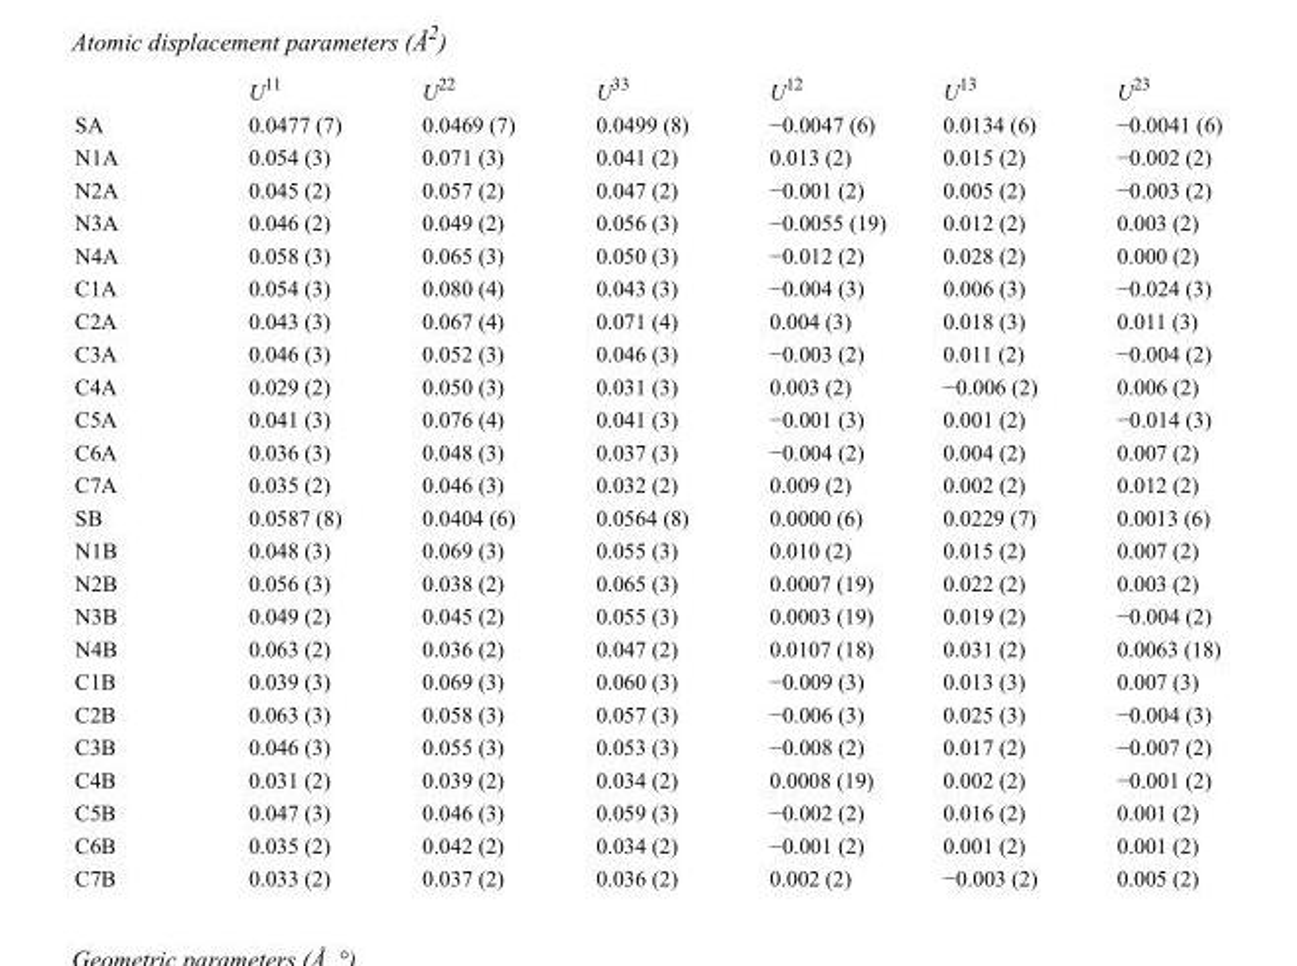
<table><thead><tr><td></td><td>U<sup>11</sup></td><td>U<sup>22</sup></td><td>U<sup>33</sup></td><td>U<sup>12</sup></td><td>U<sup>13</sup></td><td>U<sup>23</sup></td></tr></thead><tbody><tr><td>SA</td><td>0.0477 (7)</td><td>0.0469 (7)</td><td>0.0499 (8)</td><td>−0.0047 (6)</td><td>0.0134 (6)</td><td>−0.0041 (6)</td></tr><tr><td>N1A</td><td>0.054 (3)</td><td>0.071 (3)</td><td>0.041 (2)</td><td>0.013 (2)</td><td>0.015 (2)</td><td>−0.002 (2)</td></tr><tr><td>N2A</td><td>0.045 (2)</td><td>0.057 (2)</td><td>0.047 (2)</td><td>−0.001 (2)</td><td>0.005 (2)</td><td>−0.003 (2)</td></tr><tr><td>N3A</td><td>0.046 (2)</td><td>0.049 (2)</td><td>0.056 (3)</td><td>−0.0055 (19)</td><td>0.012 (2)</td><td>0.003 (2)</td></tr><tr><td>N4A</td><td>0.058 (3)</td><td>0.065 (3)</td><td>0.050 (3)</td><td>−0.012 (2)</td><td>0.028 (2)</td><td>0.000 (2)</td></tr><tr><td>C1A</td><td>0.054 (3)</td><td>0.080 (4)</td><td>0.043 (3)</td><td>−0.004 (3)</td><td>0.006 (3)</td><td>−0.024 (3)</td></tr><tr><td>C2A</td><td>0.043 (3)</td><td>0.067 (4)</td><td>0.071 (4)</td><td>0.004 (3)</td><td>0.018 (3)</td><td>0.011 (3)</td></tr><tr><td>C3A</td><td>0.046 (3)</td><td>0.052 (3)</td><td>0.046 (3)</td><td>−0.003 (2)</td><td>0.011 (2)</td><td>−0.004 (2)</td></tr><tr><td>C4A</td><td>0.029 (2)</td><td>0.050 (3)</td><td>0.031 (3)</td><td>0.003 (2)</td><td>−0.006 (2)</td><td>0.006 (2)</td></tr><tr><td>C5A</td><td>0.041 (3)</td><td>0.076 (4)</td><td>0.041 (3)</td><td>−0.001 (3)</td><td>0.001 (2)</td><td>−0.014 (3)</td></tr><tr><td>C6A</td><td>0.036 (3)</td><td>0.048 (3)</td><td>0.037 (3)</td><td>−0.004 (2)</td><td>0.004 (2)</td><td>0.007 (2)</td></tr><tr><td>C7A</td><td>0.035 (2)</td><td>0.046 (3)</td><td>0.032 (2)</td><td>0.009 (2)</td><td>0.002 (2)</td><td>0.012 (2)</td></tr><tr><td>SB</td><td>0.0587 (8)</td><td>0.0404 (6)</td><td>0.0564 (8)</td><td>0.0000 (6)</td><td>0.0229 (7)</td><td>0.0013 (6)</td></tr><tr><td>N1B</td><td>0.048 (3)</td><td>0.069 (3)</td><td>0.055 (3)</td><td>0.010 (2)</td><td>0.015 (2)</td><td>0.007 (2)</td></tr><tr><td>N2B</td><td>0.056 (3)</td><td>0.038 (2)</td><td>0.065 (3)</td><td>0.0007 (19)</td><td>0.022 (2)</td><td>0.003 (2)</td></tr><tr><td>N3B</td><td>0.049 (2)</td><td>0.045 (2)</td><td>0.055 (3)</td><td>0.0003 (19)</td><td>0.019 (2)</td><td>−0.004 (2)</td></tr><tr><td>N4B</td><td>0.063 (2)</td><td>0.036 (2)</td><td>0.047 (2)</td><td>0.0107 (18)</td><td>0.031 (2)</td><td>0.0063 (18)</td></tr><tr><td>C1B</td><td>0.039 (3)</td><td>0.069 (3)</td><td>0.060 (3)</td><td>−0.009 (3)</td><td>0.013 (3)</td><td>0.007 (3)</td></tr><tr><td>C2B</td><td>0.063 (3)</td><td>0.058 (3)</td><td>0.057 (3)</td><td>−0.006 (3)</td><td>0.025 (3)</td><td>−0.004 (3)</td></tr><tr><td>C3B</td><td>0.046 (3)</td><td>0.055 (3)</td><td>0.053 (3)</td><td>−0.008 (2)</td><td>0.017 (2)</td><td>−0.007 (2)</td></tr><tr><td>C4B</td><td>0.031 (2)</td><td>0.039 (2)</td><td>0.034 (2)</td><td>0.0008 (19)</td><td>0.002 (2)</td><td>−0.001 (2)</td></tr><tr><td>C5B</td><td>0.047 (3)</td><td>0.046 (3)</td><td>0.059 (3)</td><td>−0.002 (2)</td><td>0.016 (2)</td><td>0.001 (2)</td></tr><tr><td>C6B</td><td>0.035 (2)</td><td>0.042 (2)</td><td>0.034 (2)</td><td>−0.001 (2)</td><td>0.001 (2)</td><td>0.001 (2)</td></tr><tr><td>C7B</td><td>0.033 (2)</td><td>0.037 (2)</td><td>0.036 (2)</td><td>0.002 (2)</td><td>−0.003 (2)</td><td>0.005 (2)</td></tr></tbody></table>